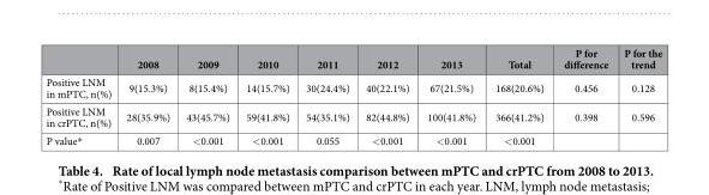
<table><thead><tr><td></td><td>2008</td><td>2009</td><td>2010</td><td>2011</td><td>2012</td><td>2013</td><td>Total</td><td>P for difference</td><td>P for the trend</td></tr></thead><tbody><tr><td>Positive LNM in mPTC, n(%)</td><td>9(15.3%)</td><td>8(15.4%)</td><td>14(15.7%)</td><td>30(24.4%)</td><td>40(22.1%)</td><td>67(21.5%)</td><td>168(20.6%)</td><td>0.456</td><td>0.128</td></tr><tr><td>Positive LNM in crPTC, n(%)</td><td>28(35.9%)</td><td>43(45.7%)</td><td>59(41.8%)</td><td>54(35.1%)</td><td>82(44.8%)</td><td>100(41.8%)</td><td>366(41.2%)</td><td>0.398</td><td>0.596</td></tr><tr><td>P value*</td><td>0.007</td><td>&lt; 0.001</td><td>&lt; 0.001</td><td>0.055</td><td>&lt; 0.001</td><td>&lt; 0.001</td><td>&lt; 0.001</td><td></td><td></td></tr></tbody></table>